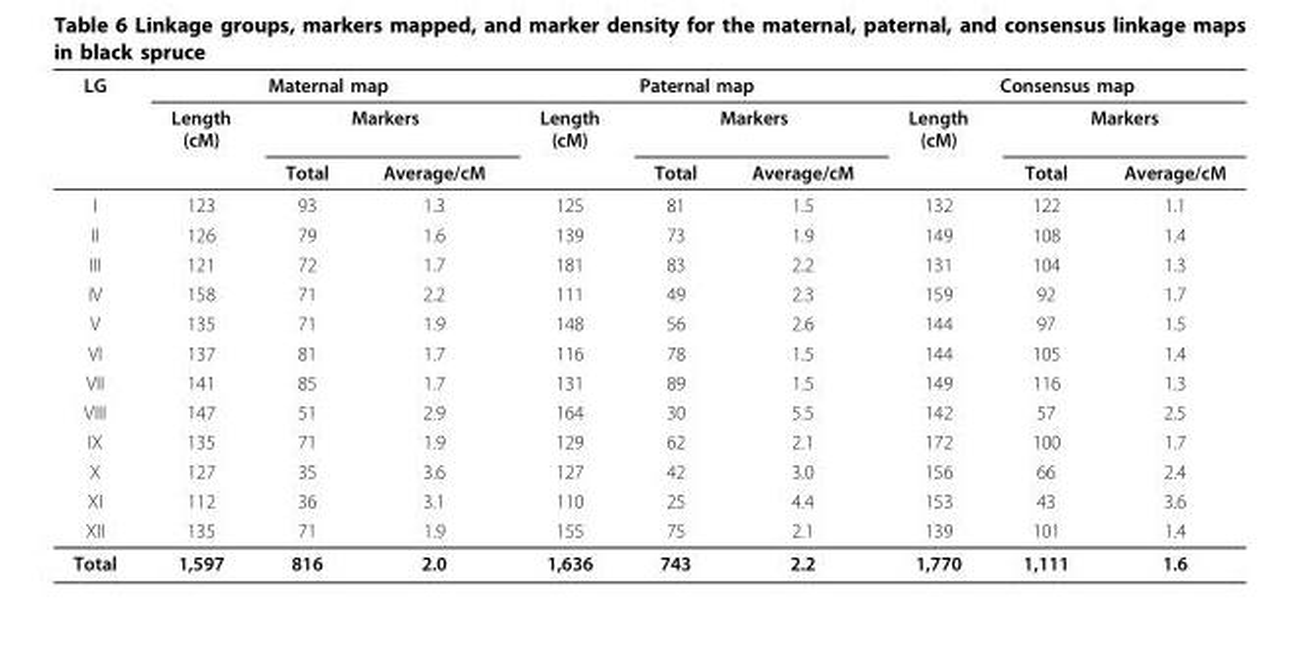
<table><thead><tr><td rowspan="3">LG</td><td colspan="3">Maternal map</td><td colspan="3">Paternal map</td><td colspan="3">Consensus map</td></tr><tr><td rowspan="2">Length (cM)</td><td colspan="2">Markers</td><td rowspan="2">Length (cM)</td><td colspan="2">Markers</td><td rowspan="2">Length (cM)</td><td colspan="2">Markers</td></tr><tr><td>Total</td><td>Average/cM</td><td>Total</td><td>Average/cM</td><td>Total</td><td>Average/cM</td></tr></thead><tbody><tr><td>I</td><td>123</td><td>93</td><td>1.3</td><td>125</td><td>81</td><td>1.5</td><td>132</td><td>122</td><td>1.1</td></tr><tr><td>II</td><td>126</td><td>79</td><td>1.6</td><td>139</td><td>73</td><td>1.9</td><td>149</td><td>108</td><td>1.4</td></tr><tr><td>III</td><td>121</td><td>72</td><td>1.7</td><td>181</td><td>83</td><td>2.2</td><td>131</td><td>104</td><td>1.3</td></tr><tr><td>IV</td><td>158</td><td>71</td><td>2.2</td><td>111</td><td>49</td><td>2.3</td><td>159</td><td>92</td><td>1.7</td></tr><tr><td>V</td><td>135</td><td>71</td><td>1.9</td><td>148</td><td>56</td><td>2.6</td><td>144</td><td>97</td><td>1.5</td></tr><tr><td>VI</td><td>137</td><td>81</td><td>1.7</td><td>116</td><td>78</td><td>1.5</td><td>144</td><td>105</td><td>1.4</td></tr><tr><td>VII</td><td>141</td><td>85</td><td>1.7</td><td>131</td><td>89</td><td>1.5</td><td>149</td><td>116</td><td>1.3</td></tr><tr><td>VIII</td><td>147</td><td>51</td><td>2.9</td><td>164</td><td>30</td><td>5.5</td><td>142</td><td>57</td><td>2.5</td></tr><tr><td>IX</td><td>135</td><td>71</td><td>1.9</td><td>129</td><td>62</td><td>2.1</td><td>172</td><td>100</td><td>1.7</td></tr><tr><td>X</td><td>127</td><td>35</td><td>3.6</td><td>127</td><td>42</td><td>3.0</td><td>156</td><td>66</td><td>2.4</td></tr><tr><td>XI</td><td>112</td><td>36</td><td>3.1</td><td>110</td><td>25</td><td>4.4</td><td>153</td><td>43</td><td>3.6</td></tr><tr><td>XII</td><td>135</td><td>71</td><td>1.9</td><td>155</td><td>75</td><td>2.1</td><td>139</td><td>101</td><td>1.4</td></tr><tr><td>Total</td><td>1,597</td><td>816</td><td>2.0</td><td>1,636</td><td>743</td><td>2.2</td><td>1,770</td><td>1,111</td><td>1.6</td></tr></tbody></table>